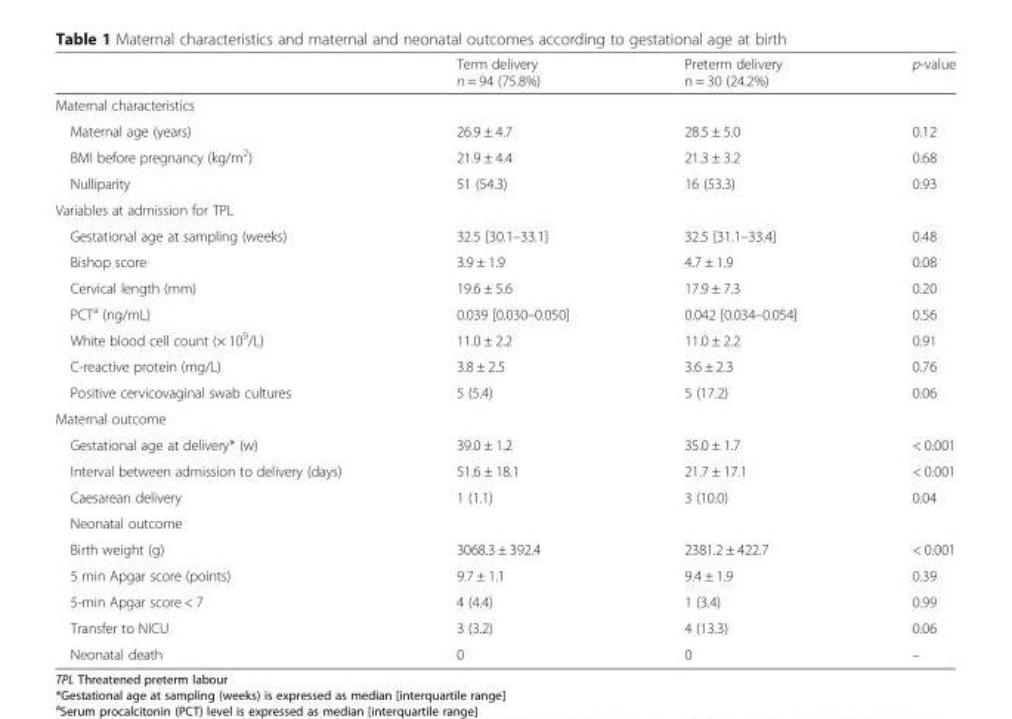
<table><thead><tr><td></td><td>Term delivery n = 94 (75.8%)</td><td>Preterm delivery n = 30 (24.2%)</td><td>p-value</td></tr></thead><tbody><tr><td colspan="4">Maternal characteristics</td></tr><tr><td>Maternal age (years)</td><td>26.9 ± 4.7</td><td>28.5 ± 5.0</td><td>0.12</td></tr><tr><td>BMI before pregnancy (kg/m<sup>2</sup>)</td><td>21.9 ± 4.4</td><td>21.3 ± 3.2</td><td>0.68</td></tr><tr><td>Nulliparity</td><td>51 (54.3)</td><td>16 (53.3)</td><td>0.93</td></tr><tr><td colspan="4">Variables at admission for TPL</td></tr><tr><td>Gestational age at sampling (weeks)</td><td>32.5 [30.1–33.1]</td><td>32.5 [31.1–33.4]</td><td>0.48</td></tr><tr><td>Bishop score</td><td>3.9 ± 1.9</td><td>4.7 ± 1.9</td><td>0.08</td></tr><tr><td>Cervical length (mm)</td><td>19.6 ± 5.6</td><td>17.9 ± 7.3</td><td>0.20</td></tr><tr><td>PCT<sup>a</sup> (ng/mL)</td><td>0.039 [0.030–0.050]</td><td>0.042 [0.034–0.054]</td><td>0.56</td></tr><tr><td>White blood cell count (× 10<sup>9</sup>/L)</td><td>11.0 ± 2.2</td><td>11.0 ± 2.2</td><td>0.91</td></tr><tr><td>C-reactive protein (mg/L)</td><td>3.8 ± 2.5</td><td>3.6 ± 2.3</td><td>0.76</td></tr><tr><td>Positive cervicovaginal swab cultures</td><td>5 (5.4)</td><td>5 (17.2)</td><td>0.06</td></tr><tr><td colspan="4">Maternal outcome</td></tr><tr><td>Gestational age at delivery* (w)</td><td>39.0 ± 1.2</td><td>35.0 ± 1.7</td><td>&lt; 0.001</td></tr><tr><td>Interval between admission to delivery (days)</td><td>51.6 ± 18.1</td><td>21.7 ± 17.1</td><td>&lt; 0.001</td></tr><tr><td>Caesarean delivery</td><td>1 (1.1)</td><td>3 (10.0)</td><td>0.04</td></tr><tr><td colspan="4">Neonatal outcome</td></tr><tr><td>Birth weight (g)</td><td>3068.3 ± 392.4</td><td>2381.2 ± 422.7</td><td>&lt; 0.001</td></tr><tr><td>5 min Apgar score (points)</td><td>9.7 ± 1.1</td><td>9.4 ± 1.9</td><td>0.39</td></tr><tr><td>5-min Apgar score &lt; 7</td><td>4 (4.4)</td><td>1 (3.4)</td><td>0.99</td></tr><tr><td>Transfer to NICU</td><td>3 (3.2)</td><td>4 (13.3)</td><td>0.06</td></tr><tr><td>Neonatal death</td><td>0</td><td>0</td><td>–</td></tr></tbody></table>